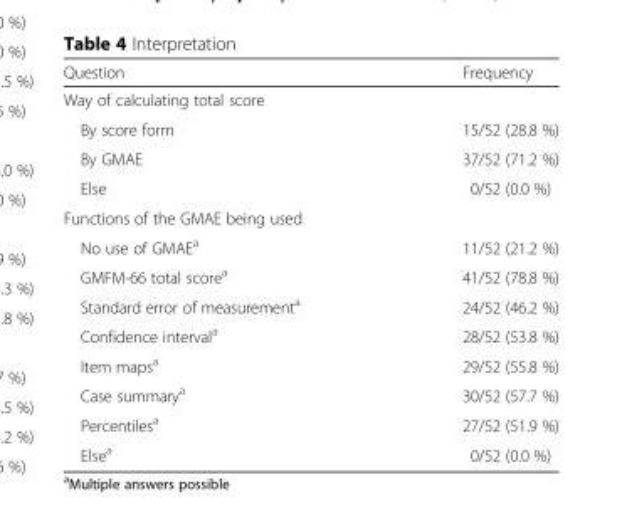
<table><thead><tr><td>Question</td><td>Frequency</td></tr></thead><tbody><tr><td colspan="2">Way of calculating total score</td></tr><tr><td>By score form</td><td>15/52 (28.8 %)</td></tr><tr><td>By GMAE</td><td>37/52 (71.2 %)</td></tr><tr><td>Else</td><td>0/52 (0.0 %)</td></tr><tr><td colspan="2">Functions of the GMAE being used</td></tr><tr><td>No use of GMAE<sup>a</sup></td><td>11/52 (21.2 %)</td></tr><tr><td>GMFM-66 total score<sup>a</sup></td><td>41/52 (78.8 %)</td></tr><tr><td>Standard error of measurement<sup>a</sup></td><td>24/52 (46.2 %)</td></tr><tr><td>Confidence interval<sup>a</sup></td><td>28/52 (53.8 %)</td></tr><tr><td>Item maps<sup>a</sup></td><td>29/52 (55.8 %)</td></tr><tr><td>Case summary<sup>a</sup></td><td>30/52 (57.7 %)</td></tr><tr><td>Percentiles<sup>a</sup></td><td>27/52 (51.9 %)</td></tr><tr><td>Else<sup>a</sup></td><td>0/52 (0.0 %)</td></tr></tbody></table>